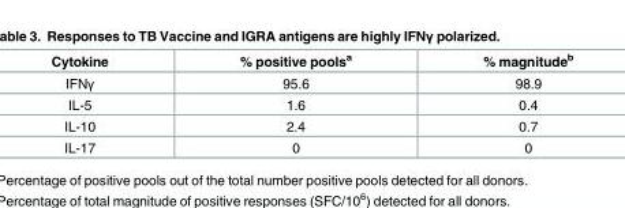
<table><thead><tr><td>Cytokine</td><td>% positive pools<sup>a</sup></td><td>% magnitude<sup>b</sup></td></tr></thead><tbody><tr><td>IFNγ</td><td>95.6</td><td>98.9</td></tr><tr><td>IL-5</td><td>1.6</td><td>0.4</td></tr><tr><td>IL-10</td><td>2.4</td><td>0.7</td></tr><tr><td>IL-17</td><td>0</td><td>0</td></tr></tbody></table>